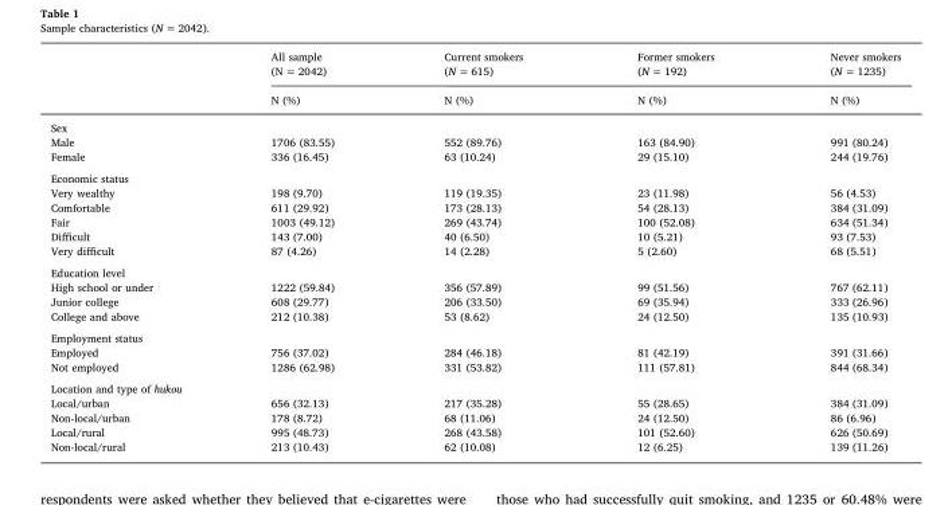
<table><thead><tr><td rowspan="2"></td><td rowspan="2">All sample (N = 2042) N (%)</td><td rowspan="2">Current smokers (N = 615) N (%)</td><td rowspan="2">Former smokers (N = 192) N (%)</td><td rowspan="2">Never smokers (N = 1235) N (%)</td></tr><tr></tr></thead><tbody><tr><td colspan="5">Sex</td></tr><tr><td>Male</td><td>1706 (83.55)</td><td>552 (89.76)</td><td>163 (84.90)</td><td>991 (80.24)</td></tr><tr><td>Female</td><td>336 (16.45)</td><td>63 (10.24)</td><td>29 (15.10)</td><td>244 (19.76)</td></tr><tr><td colspan="5">Economic status</td></tr><tr><td>Very wealthy</td><td>198 (9.70)</td><td>119 (19.35)</td><td>23 (11.98)</td><td>56 (4.53)</td></tr><tr><td>Comfortable</td><td>611 (29.92)</td><td>173 (28.13)</td><td>54 (28.13)</td><td>384 (31.09)</td></tr><tr><td>Fair</td><td>1003 (49.12)</td><td>269 (43.74)</td><td>100 (52.08)</td><td>634 (51.34)</td></tr><tr><td>Difficult</td><td>143 (7.00)</td><td>40 (6.50)</td><td>10 (5.21)</td><td>93 (7.53)</td></tr><tr><td>Very difficult</td><td>87 (4.26)</td><td>14 (2.28)</td><td>5 (2.60)</td><td>68 (5.51)</td></tr><tr><td colspan="5">Education level</td></tr><tr><td>High school or under</td><td>1222 (59.84)</td><td>356 (57.89)</td><td>99 (51.56)</td><td>767 (62.11)</td></tr><tr><td>Junior college</td><td>608 (29.77)</td><td>206 (33.50)</td><td>69 (35.94)</td><td>333 (26.96)</td></tr><tr><td>College and above</td><td>212 (10.38)</td><td>53 (8.62)</td><td>24 (12.50)</td><td>135 (10.93)</td></tr><tr><td colspan="5">Employment status</td></tr><tr><td>Employed</td><td>756 (37.02)</td><td>284 (46.18)</td><td>81 (42.19)</td><td>391 (31.66)</td></tr><tr><td>Not employed</td><td>1286 (62.98)</td><td>331 (53.82)</td><td>111 (57.81)</td><td>844 (68.34)</td></tr><tr><td colspan="5">Location and type of hukou</td></tr><tr><td>Local/urban</td><td>656 (32.13)</td><td>217 (35.28)</td><td>55 (28.65)</td><td>384 (31.09)</td></tr><tr><td>Non-local/urban</td><td>178 (8.72)</td><td>68 (11.06)</td><td>24 (12.50)</td><td>86 (6.96)</td></tr><tr><td>Local/rural</td><td>995 (48.73)</td><td>268 (43.58)</td><td>101 (52.60)</td><td>626 (50.69)</td></tr><tr><td>Non-local/rural</td><td>213 (10.43)</td><td>62 (10.08)</td><td>12 (6.25)</td><td>139 (11.26)</td></tr></tbody></table>